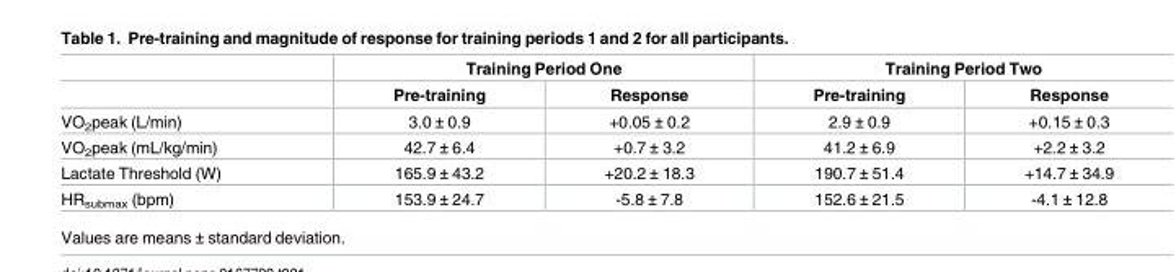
<table><thead><tr><td rowspan="2"></td><td colspan="2">Training Period One</td><td colspan="2">Training Period Two</td></tr><tr><td>Pre-training</td><td>Response</td><td>Pre-training</td><td>Response</td></tr></thead><tbody><tr><td>VO<sub>2</sub>peak (L/min)</td><td>3.0 ± 0.9</td><td>+0.05 ± 0.2</td><td>2.9 ± 0.9</td><td>+0.15 ± 0.3</td></tr><tr><td>VO<sub>2</sub>peak (mL/kg/min)</td><td>42.7 ± 6.4</td><td>+0.7 ± 3.2</td><td>41.2 ± 6.9</td><td>+2.2 ± 3.2</td></tr><tr><td>Lactate Threshold (W)</td><td>165.9 ± 43.2</td><td>+20.2 ± 18.3</td><td>190.7 ± 51.4</td><td>+14.7 ± 34.9</td></tr><tr><td>HR<sub>submax</sub> (bpm)</td><td>153.9 ± 24.7</td><td>-5.8 ± 7.8</td><td>152.6 ± 21.5</td><td>-4.1 ± 12.8</td></tr></tbody></table>